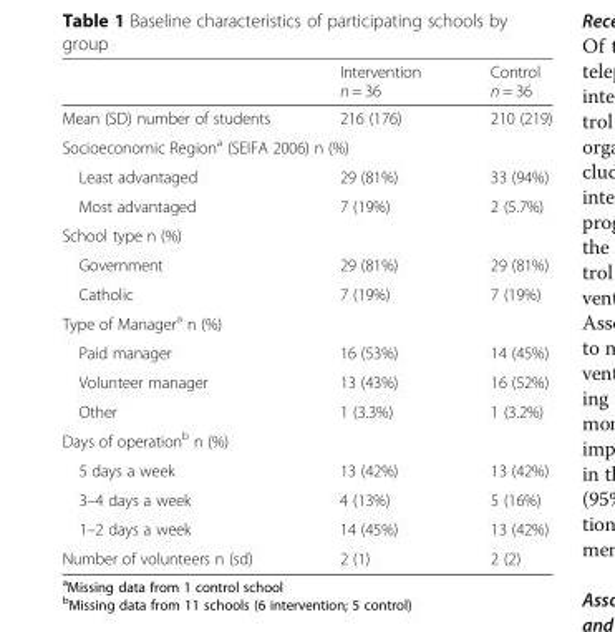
<table><thead><tr><td></td><td>Intervention n = 36</td><td>Control n = 36</td></tr></thead><tbody><tr><td>Mean (SD) number of students</td><td>216 (176)</td><td>210 (219)</td></tr><tr><td colspan="3">Socioeconomic Region<sup>a</sup> (SEIFA 2006) n (%)</td></tr><tr><td>Least advantaged</td><td>29 (81%)</td><td>33 (94%)</td></tr><tr><td>Most advantaged</td><td>7 (19%)</td><td>2 (5.7%)</td></tr><tr><td colspan="3">School type n (%)</td></tr><tr><td>Government</td><td>29 (81%)</td><td>29 (81%)</td></tr><tr><td>Catholic</td><td>7 (19%)</td><td>7 (19%)</td></tr><tr><td colspan="3">Type of Manager<sup>a</sup> n (%)</td></tr><tr><td>Paid manager</td><td>16 (53%)</td><td>14 (45%)</td></tr><tr><td>Volunteer manager</td><td>13 (43%)</td><td>16 (52%)</td></tr><tr><td>Other</td><td>1 (3.3%)</td><td>1 (3.2%)</td></tr><tr><td colspan="3">Days of operation<sup>b</sup> n (%)</td></tr><tr><td>5 days a week</td><td>13 (42%)</td><td>13 (42%)</td></tr><tr><td>3–4 days a week</td><td>4 (13%)</td><td>5 (16%)</td></tr><tr><td>1–2 days a week</td><td>14 (45%)</td><td>13 (42%)</td></tr><tr><td>Number of volunteers n (sd)</td><td>2 (1)</td><td>2 (2)</td></tr></tbody></table>